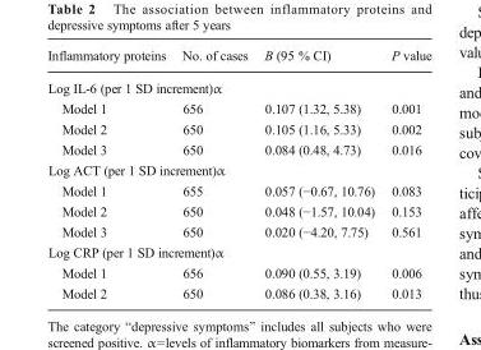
<table><thead><tr><td>Inflammatory proteins</td><td>No. of cases</td><td>B (95 % CI)</td><td>P value</td></tr></thead><tbody><tr><td colspan="4">Log IL-6 (per 1 SD increment)α</td></tr><tr><td>Model 1</td><td>656</td><td>0.107 (1.32, 5.38)</td><td>0.001</td></tr><tr><td>Model 2</td><td>650</td><td>0.105 (1.16, 5.33)</td><td>0.002</td></tr><tr><td>Model 3</td><td>650</td><td>0.084 (0.48, 4.73)</td><td>0.016</td></tr><tr><td colspan="4">Log ACT (per 1 SD increment)α</td></tr><tr><td>Model 1</td><td>655</td><td>0.057 (−0.67, 10.76)</td><td>0.083</td></tr><tr><td>Model 2</td><td>650</td><td>0.048 (−1.57, 10.04)</td><td>0.153</td></tr><tr><td>Model 3</td><td>650</td><td>0.020 (−4.20, 7.75)</td><td>0.561</td></tr><tr><td colspan="4">Log CRP (per 1 SD increment)α</td></tr><tr><td>Model 1</td><td>656</td><td>0.090 (0.55, 3.19)</td><td>0.006</td></tr><tr><td>Model 2</td><td>650</td><td>0.086 (0.38, 3.16)</td><td>0.013</td></tr></tbody></table>